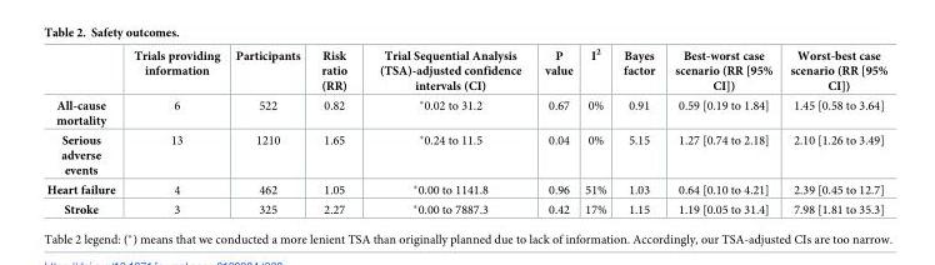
<table><thead><tr><td></td><td>Trials providing information</td><td>Participants</td><td>Risk ratio (RR)</td><td>Trial Sequential Analysis (TSA)-adjusted confidence intervals (CI)</td><td>P value</td><td>I<sup>2</sup></td><td>Bayes factor</td><td>Best-worst case scenario (RR [95% CI])</td><td>Worst-best case scenario (RR [95% CI])</td></tr></thead><tbody><tr><td>All-cause mortality</td><td>6</td><td>522</td><td>0.82</td><td>*0.02 to 31.2</td><td>0.67</td><td>0%</td><td>0.91</td><td>0.59 [0.19 to 1.84]</td><td>1.45 [0.58 to 3.64]</td></tr><tr><td>Serious adverse events</td><td>13</td><td>1210</td><td>1.65</td><td>*0.24 to 11.5</td><td>0.04</td><td>0%</td><td>5.15</td><td>1.27 [0.74 to 2.18]</td><td>2.10 [1.26 to 3.49]</td></tr><tr><td>Heart failure</td><td>4</td><td>462</td><td>1.05</td><td>*0.00 to 1141.8</td><td>0.96</td><td>51%</td><td>1.03</td><td>0.64 [0.10 to 4.21]</td><td>2.39 [0.45 to 12.7]</td></tr><tr><td>Stroke</td><td>3</td><td>325</td><td>2.27</td><td>*0.00 to 7887.3</td><td>0.42</td><td>17%</td><td>1.15</td><td>1.19 [0.05 to 31.4]</td><td>7.98 [1.81 to 35.3]</td></tr></tbody></table>